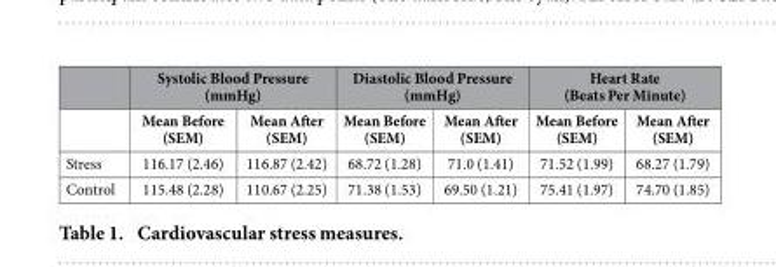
<table><thead><tr><td rowspan="2"></td><td colspan="2">Systolic Blood Pressure (mmHg)</td><td colspan="2">Diastolic Blood Pressure (mmHg)</td><td colspan="2">Heart Rate (Beats Per Minute)</td></tr><tr><td>Mean Before (SEM)</td><td>Mean After (SEM)</td><td>Mean Before (SEM)</td><td>Mean After (SEM)</td><td>Mean Before (SEM)</td><td>Mean After (SEM)</td></tr></thead><tbody><tr><td>Stress</td><td>116.17 (2.46)</td><td>116.87 (2.42)</td><td>68.72 (1.28)</td><td>71.0 (1.41)</td><td>71.52 (1.99)</td><td>68.27 (1.79)</td></tr><tr><td>Control</td><td>115.48 (2.28)</td><td>110.67 (2.25)</td><td>71.38 (1.53)</td><td>69.50 (1.21)</td><td>75.41 (1.97)</td><td>74.70 (1.85)</td></tr></tbody></table>